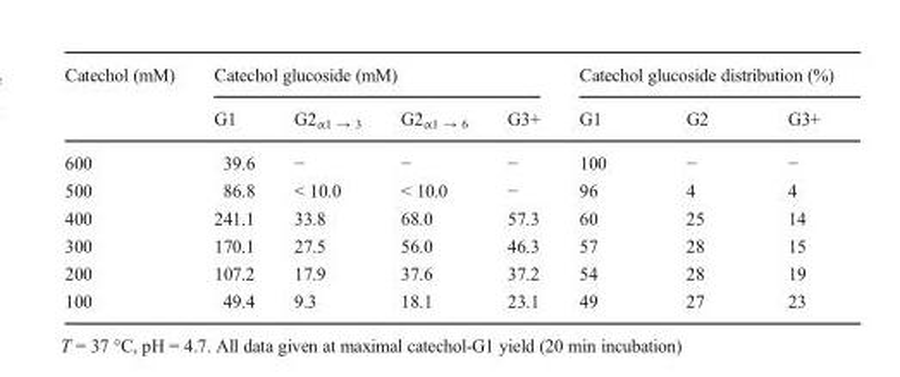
<table><thead><tr><td rowspan="2">Catechol (mM)</td><td colspan="4">Catechol glucoside (mM)</td><td colspan="3">Catechol glucoside distribution (%)</td></tr><tr><td>G1</td><td>G2<sub>α1 → 3</sub></td><td>G2<sub>α1 → 6</sub></td><td>G3+</td><td>G1</td><td>G2</td><td>G3+</td></tr></thead><tbody><tr><td>600</td><td>39.6</td><td>−</td><td>−</td><td>−</td><td>100</td><td>−</td><td>−</td></tr><tr><td>500</td><td>86.8</td><td>&lt; 10.0</td><td>&lt; 10.0</td><td>−</td><td>96</td><td>4</td><td>4</td></tr><tr><td>400</td><td>241.1</td><td>33.8</td><td>68.0</td><td>57.3</td><td>60</td><td>25</td><td>14</td></tr><tr><td>300</td><td>170.1</td><td>27.5</td><td>56.0</td><td>46.3</td><td>57</td><td>28</td><td>15</td></tr><tr><td>200</td><td>107.2</td><td>17.9</td><td>37.6</td><td>37.2</td><td>54</td><td>28</td><td>19</td></tr><tr><td>100</td><td>49.4</td><td>9.3</td><td>18.1</td><td>23.1</td><td>49</td><td>27</td><td>23</td></tr></tbody></table>